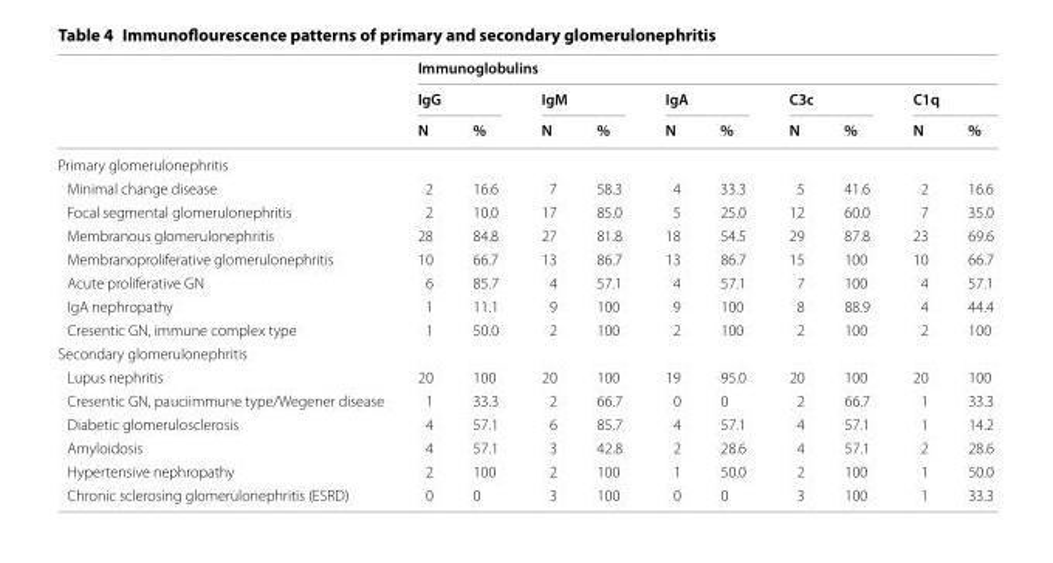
<table><thead><tr><td rowspan="3"></td><td colspan="10">Immunoglobulins</td></tr><tr><td colspan="2">IgG</td><td colspan="2">IgM</td><td colspan="2">IgA</td><td colspan="2">C3c</td><td colspan="2">C1q</td></tr><tr><td>N</td><td>%</td><td>N</td><td>%</td><td>N</td><td>%</td><td>N</td><td>%</td><td>N</td><td>%</td></tr></thead><tbody><tr><td colspan="11">Primary glomerulonephritis</td></tr><tr><td>Minimal change disease</td><td>2</td><td>16.6</td><td>7</td><td>58.3</td><td>4</td><td>33.3</td><td>5</td><td>41.6</td><td>2</td><td>16.6</td></tr><tr><td>Focal segmental glomerulonephritis</td><td>2</td><td>10.0</td><td>17</td><td>85.0</td><td>5</td><td>25.0</td><td>12</td><td>60.0</td><td>7</td><td>35.0</td></tr><tr><td>Membranous glomerulonephritis</td><td>28</td><td>84.8</td><td>27</td><td>81.8</td><td>18</td><td>54.5</td><td>29</td><td>87.8</td><td>23</td><td>69.6</td></tr><tr><td>Membranoproliferative glomerulonephritis</td><td>10</td><td>66.7</td><td>13</td><td>86.7</td><td>13</td><td>86.7</td><td>15</td><td>100</td><td>10</td><td>66.7</td></tr><tr><td>Acute proliferative GN</td><td>6</td><td>85.7</td><td>4</td><td>57.1</td><td>4</td><td>57.1</td><td>7</td><td>100</td><td>4</td><td>57.1</td></tr><tr><td>IgA nephropathy</td><td>1</td><td>11.1</td><td>9</td><td>100</td><td>9</td><td>100</td><td>8</td><td>88.9</td><td>4</td><td>44.4</td></tr><tr><td>Cresentic GN, immune complex type</td><td>1</td><td>50.0</td><td>2</td><td>100</td><td>2</td><td>100</td><td>2</td><td>100</td><td>2</td><td>100</td></tr><tr><td colspan="11">Secondary glomerulonephritis</td></tr><tr><td>Lupus nephritis</td><td>20</td><td>100</td><td>20</td><td>100</td><td>19</td><td>95.0</td><td>20</td><td>100</td><td>20</td><td>100</td></tr><tr><td>Cresentic GN, pauciimmune type/Wegener disease</td><td>1</td><td>33.3</td><td>2</td><td>66.7</td><td>0</td><td>0</td><td>2</td><td>66.7</td><td>1</td><td>33.3</td></tr><tr><td>Diabetic glomerulosclerosis</td><td>4</td><td>57.1</td><td>6</td><td>85.7</td><td>4</td><td>57.1</td><td>4</td><td>57.1</td><td>1</td><td>14.2</td></tr><tr><td>Amyloidosis</td><td>4</td><td>57.1</td><td>3</td><td>42.8</td><td>2</td><td>28.6</td><td>4</td><td>57.1</td><td>2</td><td>28.6</td></tr><tr><td>Hypertensive nephropathy</td><td>2</td><td>100</td><td>2</td><td>100</td><td>1</td><td>50.0</td><td>2</td><td>100</td><td>1</td><td>50.0</td></tr><tr><td>Chronic sclerosing glomerulonephritis (ESRD)</td><td>0</td><td>0</td><td>3</td><td>100</td><td>0</td><td>0</td><td>3</td><td>100</td><td>1</td><td>33.3</td></tr></tbody></table>